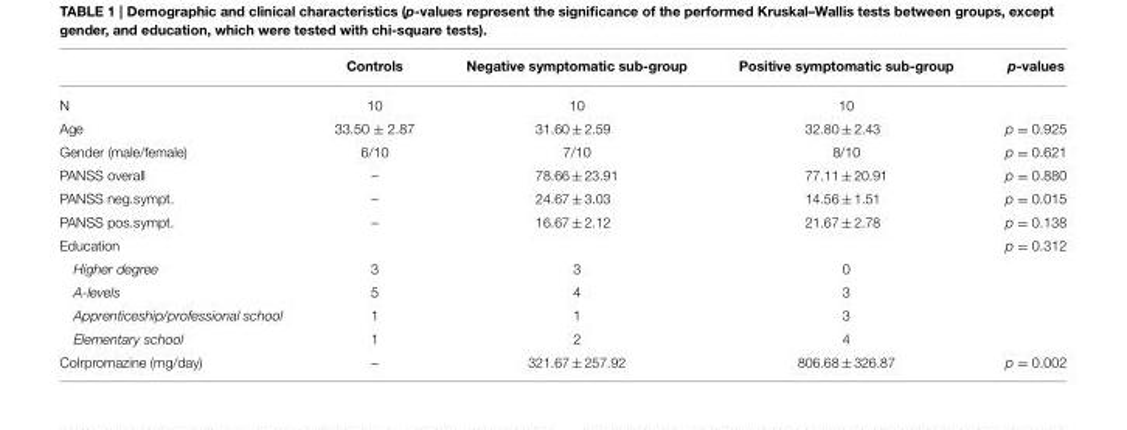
<table><thead><tr><td></td><td>Controls</td><td>Negative symptomatic sub-group</td><td>Positive symptomatic sub-group</td><td>p-values</td></tr></thead><tbody><tr><td>N</td><td>10</td><td>10</td><td>10</td><td></td></tr><tr><td>Age</td><td>33.50 ± 2.87</td><td>31.60 ± 2.59</td><td>32.80 ± 2.43</td><td>p = 0.925</td></tr><tr><td>Gender (male/female)</td><td>6/10</td><td>7/10</td><td>8/10</td><td>p = 0.621</td></tr><tr><td>PANSS overall</td><td>–</td><td>78.66 ± 23.91</td><td>77.11 ± 20.91</td><td>p = 0.880</td></tr><tr><td>PANSS neg.sympt.</td><td>–</td><td>24.67 ± 3.03</td><td>14.56 ± 1.51</td><td>p = 0.015</td></tr><tr><td>PANSS pos.sympt.</td><td>–</td><td>16.67 ± 2.12</td><td>21.67 ± 2.78</td><td>p = 0.138</td></tr><tr><td>Education</td><td></td><td></td><td></td><td>p = 0.312</td></tr><tr><td>Higher degree</td><td>3</td><td>3</td><td>0</td><td></td></tr><tr><td>A-levels</td><td>5</td><td>4</td><td>3</td><td></td></tr><tr><td>Apprenticeship/professional school</td><td>1</td><td>1</td><td>3</td><td></td></tr><tr><td>Elementary school</td><td>1</td><td>2</td><td>4</td><td></td></tr><tr><td>Colrpromazine (mg/day)</td><td>–</td><td>321.67 ± 257.92</td><td>806.68 ± 326.87</td><td>p = 0.002</td></tr></tbody></table>